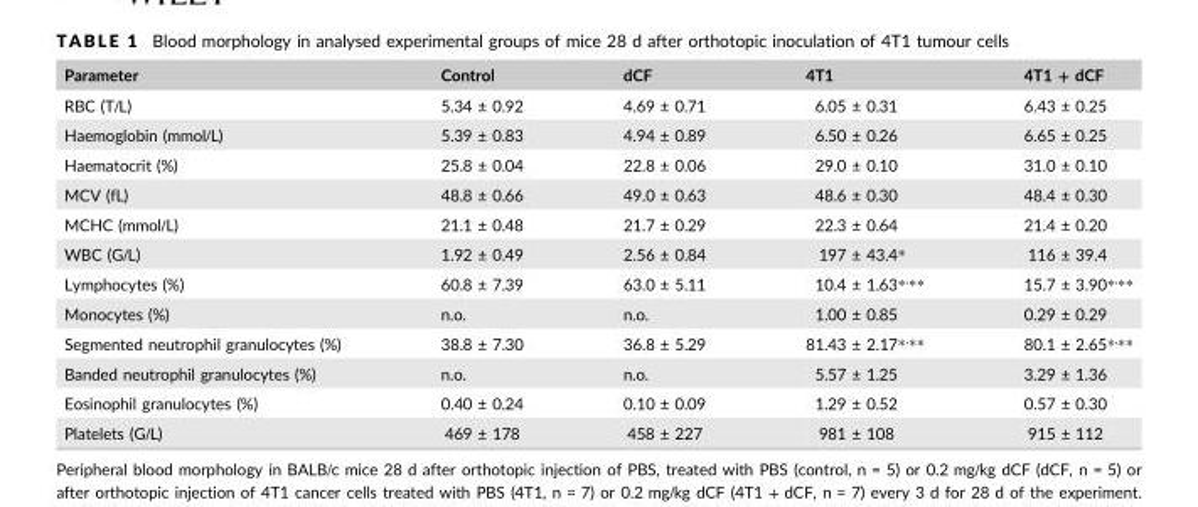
<table><thead><tr><td>Parameter</td><td>Control</td><td>dCF</td><td>4T1</td><td>4T1 + dCF</td></tr></thead><tbody><tr><td>RBC (T/L)</td><td>5.34 ± 0.92</td><td>4.69 ± 0.71</td><td>6.05 ± 0.31</td><td>6.43 ± 0.25</td></tr><tr><td>Haemoglobin (mmol/L)</td><td>5.39 ± 0.83</td><td>4.94 ± 0.89</td><td>6.50 ± 0.26</td><td>6.65 ± 0.25</td></tr><tr><td>Haematocrit (%)</td><td>25.8 ± 0.04</td><td>22.8 ± 0.06</td><td>29.0 ± 0.10</td><td>31.0 ± 0.10</td></tr><tr><td>MCV (fL)</td><td>48.8 ± 0.66</td><td>49.0 ± 0.63</td><td>48.6 ± 0.30</td><td>48.4 ± 0.30</td></tr><tr><td>MCHC (mmol/L)</td><td>21.1 ± 0.48</td><td>21.7 ± 0.29</td><td>22.3 ± 0.64</td><td>21.4 ± 0.20</td></tr><tr><td>WBC (G/L)</td><td>1.92 ± 0.49</td><td>2.56 ± 0.84</td><td>197 ± 43.4*</td><td>116 ± 39.4</td></tr><tr><td>Lymphocytes (%)</td><td>60.8 ± 7.39</td><td>63.0 ± 5.11</td><td>10.4 ± 1.63*<sup>,</sup>**</td><td>15.7 ± 3.90*<sup>,</sup>**</td></tr><tr><td>Monocytes (%)</td><td>n.o.</td><td>n.o.</td><td>1.00 ± 0.85</td><td>0.29 ± 0.29</td></tr><tr><td>Segmented neutrophil granulocytes (%)</td><td>38.8 ± 7.30</td><td>36.8 ± 5.29</td><td>81.43 ± 2.17*<sup>,</sup>**</td><td>80.1 ± 2.65*<sup>,</sup>**</td></tr><tr><td>Banded neutrophil granulocytes (%)</td><td>n.o.</td><td>n.o.</td><td>5.57 ± 1.25</td><td>3.29 ± 1.36</td></tr><tr><td>Eosinophil granulocytes (%)</td><td>0.40 ± 0.24</td><td>0.10 ± 0.09</td><td>1.29 ± 0.52</td><td>0.57 ± 0.30</td></tr><tr><td>Platelets (G/L)</td><td>469 ± 178</td><td>458 ± 227</td><td>981 ± 108</td><td>915 ± 112</td></tr></tbody></table>